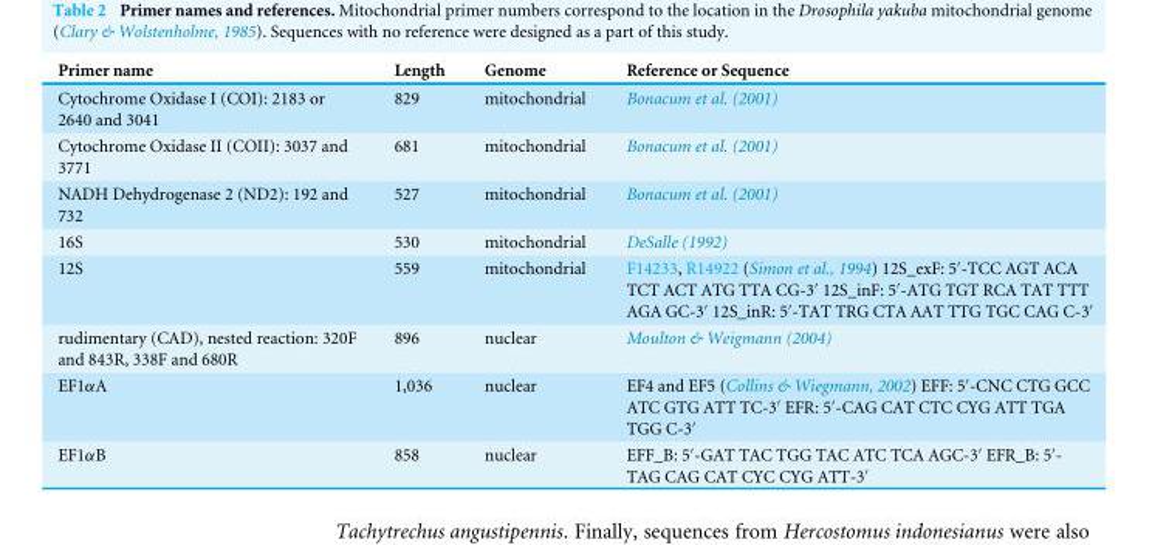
<table><thead><tr><td>Primer name</td><td>Length</td><td>Genome</td><td>Reference or Sequence</td></tr></thead><tbody><tr><td>Cytochrome Oxidase I (COI): 2183 or 2640 and 3041</td><td>829</td><td>mitochondrial</td><td>Bonacum et al. (2001)</td></tr><tr><td>Cytochrome Oxidase II (COII): 3037 and 3771</td><td>681</td><td>mitochondrial</td><td>Bonacum et al. (2001)</td></tr><tr><td>NADH Dehydrogenase 2 (ND2): 192 and 732</td><td>527</td><td>mitochondrial</td><td>Bonacum et al. (2001)</td></tr><tr><td>16S</td><td>530</td><td>mitochondrial</td><td>DeSalle (1992)</td></tr><tr><td>12S</td><td>559</td><td>mitochondrial</td><td>F14233, R14922 (Simon et al., 1994) 12S_exF: 5<sup>′</sup>-TCC AGT ACA TCT ACT ATG TTA CG-3<sup>′</sup> 12S_inF: 5<sup>′</sup>-ATG TGT RCA TAT TTT AGA GC-3<sup>′</sup> 12S_inR: 5<sup>′</sup>-TAT TRG CTA AAT TTG TGC CAG C-3<sup>′</sup></td></tr><tr><td>rudimentary (CAD), nested reaction: 320F and 843R, 338F and 680R</td><td>896</td><td>nuclear</td><td>Moulton &amp; Weigmann (2004)</td></tr><tr><td>EF1αA</td><td>1,036</td><td>nuclear</td><td>EF4 and EF5 (Collins &amp; Wiegmann, 2002) EFF: 5<sup>′</sup>-CNC CTG GCC ATC GTG ATT TC-3<sup>′</sup> EFR: 5<sup>′</sup>-CAG CAT CTC CYG ATT TGA TGG C-3<sup>′</sup></td></tr><tr><td>EF1αB</td><td>858</td><td>nuclear</td><td>EFF_B: 5<sup>′</sup>-GAT TAC TGG TAC ATC TCA AGC-3<sup>′</sup> EFR_B: 5<sup>′</sup>- TAG CAG CAT CYC CYG ATT-3<sup>′</sup></td></tr></tbody></table>